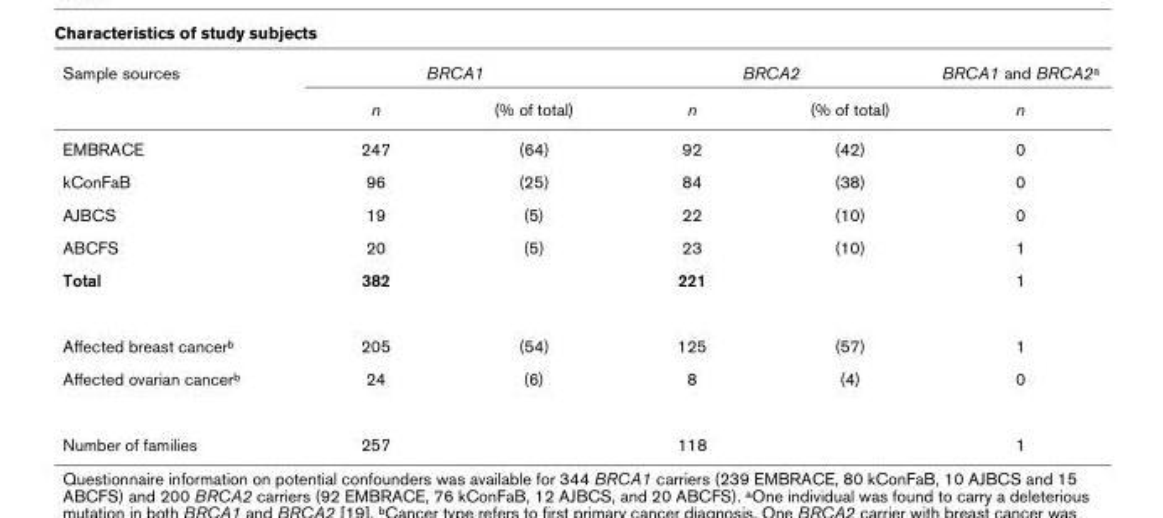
<table><thead><tr><td rowspan="2">Sample sources</td><td colspan="2">BRCA1</td><td colspan="2">BRCA2</td><td rowspan="2">BRCA1 and BRCA2a n</td></tr><tr><td>n</td><td>(% of total)</td><td>n</td><td>(% of total)</td></tr></thead><tbody><tr><td>EMBRACE</td><td>247</td><td>(64)</td><td>92</td><td>(42)</td><td>0</td></tr><tr><td>kConFaB</td><td>96</td><td>(25)</td><td>84</td><td>(38)</td><td>0</td></tr><tr><td>AJBCS</td><td>19</td><td>(5)</td><td>22</td><td>(10)</td><td>0</td></tr><tr><td>ABCFS</td><td>20</td><td>(5)</td><td>23</td><td>(10)</td><td>1</td></tr><tr><td>Total</td><td>382</td><td></td><td>221</td><td></td><td>1</td></tr><tr><td>Affected breast cancerb</td><td>205</td><td>(54)</td><td>125</td><td>(57)</td><td>1</td></tr><tr><td>Affected ovarian cancerb</td><td>24</td><td>(6)</td><td>8</td><td>(4)</td><td>0</td></tr><tr><td>Number of families</td><td>257</td><td></td><td>118</td><td></td><td>1</td></tr></tbody></table>